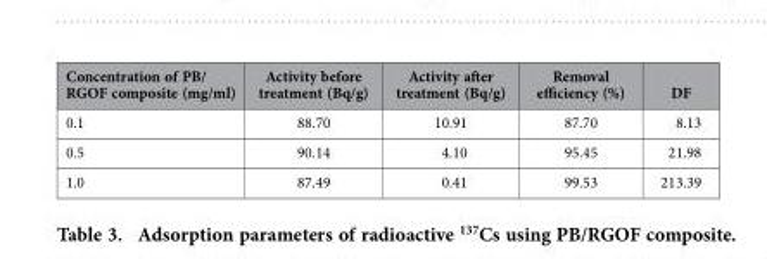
<table><thead><tr><td>Concentration of PB/ RGOF composite (mg/ml)</td><td>Activity before treatment (Bq/g)</td><td>Activity after treatment (Bq/g)</td><td>Removal efficiency (%)</td><td>DF</td></tr></thead><tbody><tr><td>0.1</td><td>88.70</td><td>10.91</td><td>87.70</td><td>8.13</td></tr><tr><td>0.5</td><td>90.14</td><td>4.10</td><td>95.45</td><td>21.98</td></tr><tr><td>1.0</td><td>87.49</td><td>0.41</td><td>99.53</td><td>213.39</td></tr></tbody></table>